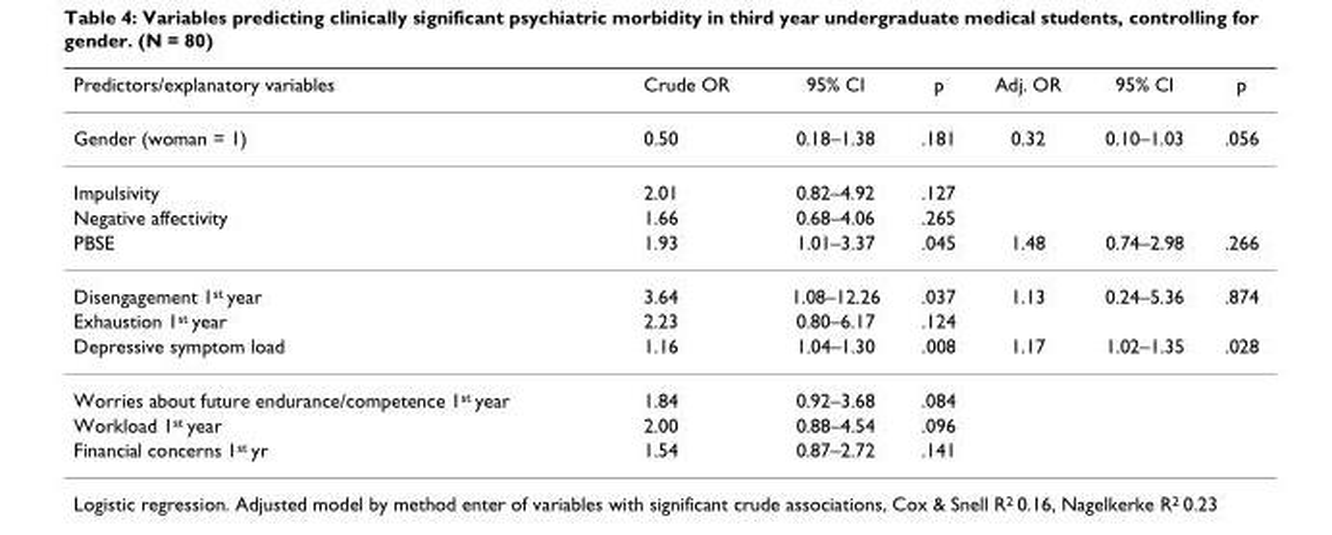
<table><thead><tr><td>Predictors/explanatory variables</td><td>Crude OR</td><td>95% CI</td><td>p</td><td>Adj. OR</td><td>95% CI</td><td>p</td></tr></thead><tbody><tr><td>Gender (woman = 1)</td><td>0.50</td><td>0.18–1.38</td><td>.181</td><td>0.32</td><td>0.10–1.03</td><td>.056</td></tr><tr><td>Impulsivity</td><td>2.01</td><td>0.82–4.92</td><td>.127</td><td></td><td></td><td></td></tr><tr><td>Negative affectivity</td><td>1.66</td><td>0.68–4.06</td><td>.265</td><td></td><td></td><td></td></tr><tr><td>PBSE</td><td>1.93</td><td>1.01–3.37</td><td>.045</td><td>1.48</td><td>0.74–2.98</td><td>.266</td></tr><tr><td>Disengagement 1<sup>st</sup> year</td><td>3.64</td><td>1.08–12.26</td><td>.037</td><td>1.13</td><td>0.24–5.36</td><td>.874</td></tr><tr><td>Exhaustion 1<sup>st</sup> year</td><td>2.23</td><td>0.80–6.17</td><td>.124</td><td></td><td></td><td></td></tr><tr><td>Depressive symptom load</td><td>1.16</td><td>1.04–1.30</td><td>.008</td><td>1.17</td><td>1.02–1.35</td><td>.028</td></tr><tr><td>Worries about future endurance/competence 1<sup>st</sup> year</td><td>1.84</td><td>0.92–3.68</td><td>.084</td><td></td><td></td><td></td></tr><tr><td>Workload 1<sup>st</sup> year</td><td>2.00</td><td>0.88–4.54</td><td>.096</td><td></td><td></td><td></td></tr><tr><td>Financial concerns 1<sup>st</sup> yr</td><td>1.54</td><td>0.87–2.72</td><td>.141</td><td></td><td></td><td></td></tr></tbody></table>